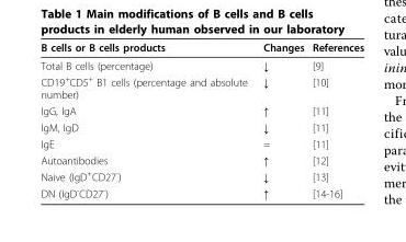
<table><thead><tr><td>B cells or B cells products</td><td>Changes</td><td>References</td></tr></thead><tbody><tr><td>Total B cells (percentage)</td><td>↓</td><td>[9]</td></tr><tr><td>CD19<sup>+</sup>CD5<sup>+</sup> B1 cells (percentage and absolute number)</td><td>↓</td><td>[10]</td></tr><tr><td>IgG, IgA</td><td>↑</td><td>[11]</td></tr><tr><td>IgM, IgD</td><td>↓</td><td>[11]</td></tr><tr><td>IgE</td><td>=</td><td>[11]</td></tr><tr><td>Autoantibodies</td><td>↑</td><td>[12]</td></tr><tr><td>Naive (IgD<sup>+</sup>CD27<sup>-</sup>)</td><td>↓</td><td>[13]</td></tr><tr><td>DN (IgD<sup>-</sup>CD27<sup>-</sup>)</td><td>↑</td><td>[14-16]</td></tr></tbody></table>